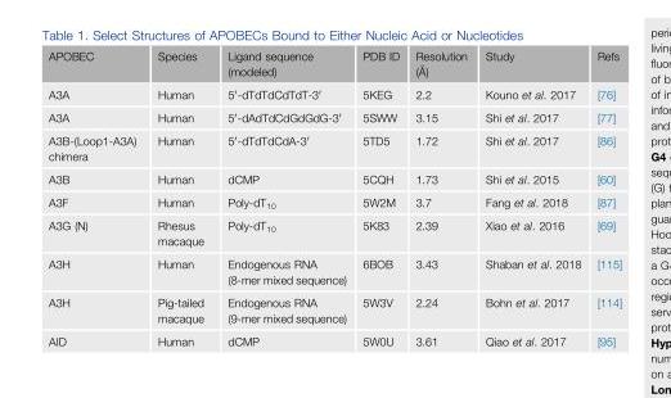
<table><thead><tr><td>APOBEC</td><td>Species</td><td>Ligand sequence (modeled)</td><td>PDB ID</td><td>Resolution (Å)</td><td>Study</td><td>Refs</td></tr></thead><tbody><tr><td>A3A</td><td>Human</td><td>5′-dTdTdCdTdT-3′</td><td>5KEG</td><td>2.2</td><td>Kouno et al. 2017</td><td>[76]</td></tr><tr><td>A3A</td><td>Human</td><td>5′-dAdTdCdGdGdG-3′</td><td>5SWW</td><td>3.15</td><td>Shi et al. 2017</td><td>[77]</td></tr><tr><td>A3B-(Loop1-A3A) chimera</td><td>Human</td><td>5′-dTdTdCdA-3′</td><td>5TD5</td><td>1.72</td><td>Shi et al. 2017</td><td>[86]</td></tr><tr><td>A3B</td><td>Human</td><td>dCMP</td><td>5CQH</td><td>1.73</td><td>Shi et al. 2015</td><td>[60]</td></tr><tr><td>A3F</td><td>Human</td><td>Poly-dT<sub>10</sub></td><td>5W2M</td><td>3.7</td><td>Fang et al. 2018</td><td>[87]</td></tr><tr><td>A3G (N)</td><td>Rhesus macaque</td><td>Poly-dT<sub>10</sub></td><td>5K83</td><td>2.39</td><td>Xiao et al. 2016</td><td>[69]</td></tr><tr><td>A3H</td><td>Human</td><td>Endogenous RNA (8-mer mixed sequence)</td><td>6BOB</td><td>3.43</td><td>Shaban et al. 2018</td><td>[115]</td></tr><tr><td>A3H</td><td>Pig-tailed macaque</td><td>Endogenous RNA (9-mer mixed sequence)</td><td>5W3V</td><td>2.24</td><td>Bohn et al. 2017</td><td>[114]</td></tr><tr><td>AID</td><td>Human</td><td>dCMP</td><td>5W0U</td><td>3.61</td><td>Qiao et al. 2017</td><td>[95]</td></tr></tbody></table>